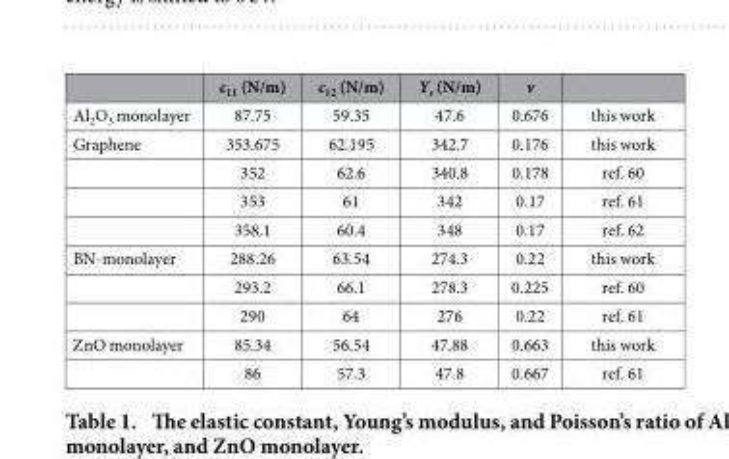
<table><thead><tr><td></td><td>c<sub>11</sub> (N/m)</td><td>c<sub>12</sub> (N/m)</td><td>Y<sub>s</sub> (N/m)</td><td>v</td><td></td></tr></thead><tbody><tr><td>Al<sub>2</sub>O<sub>3</sub> monolayer</td><td>87.75</td><td>59.35</td><td>47.6</td><td>0.676</td><td>this work</td></tr><tr><td rowspan="4">Graphene</td><td>353.675</td><td>62.195</td><td>342.7</td><td>0.176</td><td>this work</td></tr><tr><td>352</td><td>62.6</td><td>340.8</td><td>0.178</td><td>ref. 60</td></tr><tr><td>353</td><td>61</td><td>342</td><td>0.17</td><td>ref. 61</td></tr><tr><td>358.1</td><td>60.4</td><td>348</td><td>0.17</td><td>ref. 62</td></tr><tr><td rowspan="3">BN-monolayer</td><td>288.26</td><td>63.54</td><td>274.3</td><td>0.22</td><td>this work</td></tr><tr><td>293.2</td><td>66.1</td><td>278.3</td><td>0.225</td><td>ref. 60</td></tr><tr><td>290</td><td>64</td><td>276</td><td>0.22</td><td>ref. 61</td></tr><tr><td rowspan="2">ZnO monolayer</td><td>85.34</td><td>56.54</td><td>47.88</td><td>0.663</td><td>this work</td></tr><tr><td>86</td><td>57.3</td><td>47.8</td><td>0.667</td><td>ref. 61</td></tr></tbody></table>